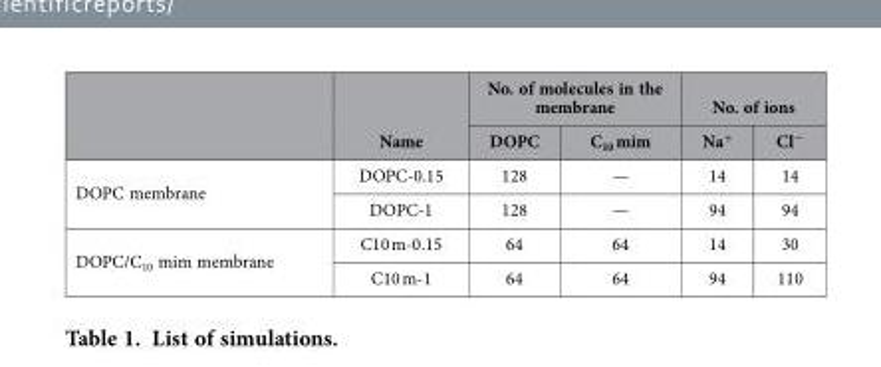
<table><thead><tr><td rowspan="2"></td><td rowspan="2">Name</td><td colspan="2">No. of molecules in the membrane</td><td colspan="2">No. of ions</td></tr><tr><td>DOPC</td><td>C<sub>10</sub> mim</td><td>Na<sup>+</sup></td><td>Cl<sup>−</sup></td></tr></thead><tbody><tr><td rowspan="2">DOPC membrane</td><td>DOPC-0.15</td><td>128</td><td>—</td><td>14</td><td>14</td></tr><tr><td>DOPC-1</td><td>128</td><td>—</td><td>94</td><td>94</td></tr><tr><td rowspan="2">DOPC/C<sub>10</sub> mim membrane</td><td>C10 m-0.15</td><td>64</td><td>64</td><td>14</td><td>30</td></tr><tr><td>C10 m-1</td><td>64</td><td>64</td><td>94</td><td>110</td></tr></tbody></table>